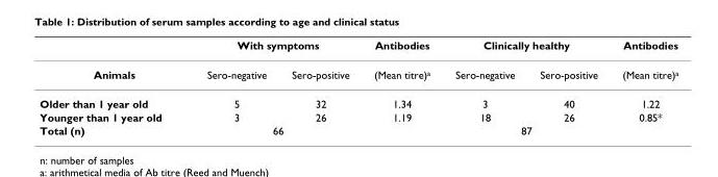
<table><thead><tr><td rowspan="2">Animals</td><td colspan="2">With symptoms</td><td rowspan="2">Antibodies (Mean titre)a</td><td colspan="2">Clinically healthy</td><td rowspan="2">Antibodies (Mean titre)a</td></tr><tr><td>Sero-negative</td><td>Sero-positive</td><td>Sero-negative</td><td>Sero-positive</td></tr></thead><tbody><tr><td>Older than 1 year old</td><td>5</td><td>32</td><td>1.34</td><td>3</td><td>40</td><td>1.22</td></tr><tr><td>Younger than 1 year old</td><td>3</td><td>26</td><td>1.19</td><td>18</td><td>26</td><td>0.85*</td></tr><tr><td>Total (n)</td><td colspan="2">66</td><td></td><td colspan="2">87</td><td></td></tr></tbody></table>